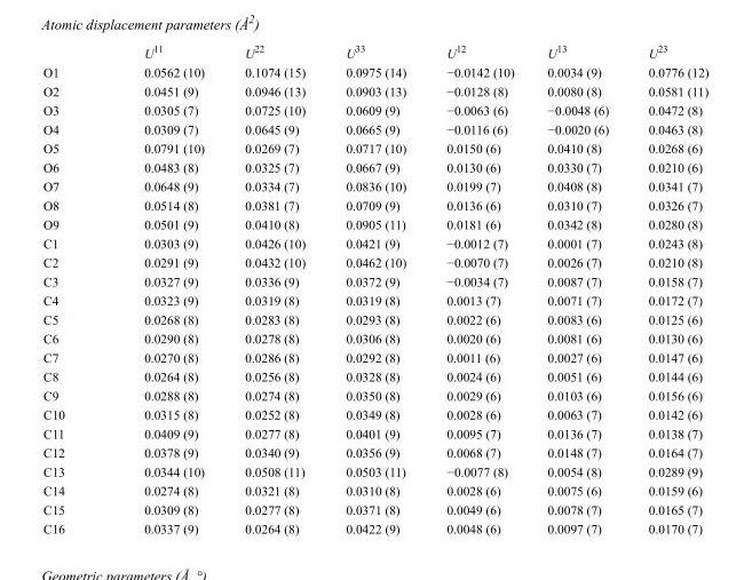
<table><thead><tr><td></td><td>U<sup>11</sup></td><td>U<sup>22</sup></td><td>U<sup>33</sup></td><td>U<sup>12</sup></td><td>U<sup>13</sup></td><td>U<sup>23</sup></td></tr></thead><tbody><tr><td>O1</td><td>0.0562 (10)</td><td>0.1074 (15)</td><td>0.0975 (14)</td><td>−0.0142 (10)</td><td>0.0034 (9)</td><td>0.0776 (12)</td></tr><tr><td>O2</td><td>0.0451 (9)</td><td>0.0946 (13)</td><td>0.0903 (13)</td><td>−0.0128 (8)</td><td>0.0080 (8)</td><td>0.0581 (11)</td></tr><tr><td>O3</td><td>0.0305 (7)</td><td>0.0725 (10)</td><td>0.0609 (9)</td><td>−0.0063 (6)</td><td>−0.0048 (6)</td><td>0.0472 (8)</td></tr><tr><td>O4</td><td>0.0309 (7)</td><td>0.0645 (9)</td><td>0.0665 (9)</td><td>−0.0116 (6)</td><td>−0.0020 (6)</td><td>0.0463 (8)</td></tr><tr><td>O5</td><td>0.0791 (10)</td><td>0.0269 (7)</td><td>0.0717 (10)</td><td>0.0150 (6)</td><td>0.0410 (8)</td><td>0.0268 (6)</td></tr><tr><td>O6</td><td>0.0483 (8)</td><td>0.0325 (7)</td><td>0.0667 (9)</td><td>0.0130 (6)</td><td>0.0330 (7)</td><td>0.0210 (6)</td></tr><tr><td>O7</td><td>0.0648 (9)</td><td>0.0334 (7)</td><td>0.0836 (10)</td><td>0.0199 (7)</td><td>0.0408 (8)</td><td>0.0341 (7)</td></tr><tr><td>O8</td><td>0.0514 (8)</td><td>0.0381 (7)</td><td>0.0709 (9)</td><td>0.0136 (6)</td><td>0.0310 (7)</td><td>0.0326 (7)</td></tr><tr><td>O9</td><td>0.0501 (9)</td><td>0.0410 (8)</td><td>0.0905 (11)</td><td>0.0181 (6)</td><td>0.0342 (8)</td><td>0.0280 (8)</td></tr><tr><td>C1</td><td>0.0303 (9)</td><td>0.0426 (10)</td><td>0.0421 (9)</td><td>−0.0012 (7)</td><td>0.0001 (7)</td><td>0.0243 (8)</td></tr><tr><td>C2</td><td>0.0291 (9)</td><td>0.0432 (10)</td><td>0.0462 (10)</td><td>−0.0070 (7)</td><td>0.0026 (7)</td><td>0.0210 (8)</td></tr><tr><td>C3</td><td>0.0327 (9)</td><td>0.0336 (9)</td><td>0.0372 (9)</td><td>−0.0034 (7)</td><td>0.0087 (7)</td><td>0.0158 (7)</td></tr><tr><td>C4</td><td>0.0323 (9)</td><td>0.0319 (8)</td><td>0.0319 (8)</td><td>0.0013 (7)</td><td>0.0071 (7)</td><td>0.0172 (7)</td></tr><tr><td>C5</td><td>0.0268 (8)</td><td>0.0283 (8)</td><td>0.0293 (8)</td><td>0.0022 (6)</td><td>0.0083 (6)</td><td>0.0125 (6)</td></tr><tr><td>C6</td><td>0.0290 (8)</td><td>0.0278 (8)</td><td>0.0306 (8)</td><td>0.0020 (6)</td><td>0.0081 (6)</td><td>0.0130 (6)</td></tr><tr><td>C7</td><td>0.0270 (8)</td><td>0.0286 (8)</td><td>0.0292 (8)</td><td>0.0011 (6)</td><td>0.0027 (6)</td><td>0.0147 (6)</td></tr><tr><td>C8</td><td>0.0264 (8)</td><td>0.0256 (8)</td><td>0.0328 (8)</td><td>0.0024 (6)</td><td>0.0051 (6)</td><td>0.0144 (6)</td></tr><tr><td>C9</td><td>0.0288 (8)</td><td>0.0274 (8)</td><td>0.0350 (8)</td><td>0.0029 (6)</td><td>0.0103 (6)</td><td>0.0156 (6)</td></tr><tr><td>C10</td><td>0.0315 (8)</td><td>0.0252 (8)</td><td>0.0349 (8)</td><td>0.0028 (6)</td><td>0.0063 (7)</td><td>0.0142 (6)</td></tr><tr><td>C11</td><td>0.0409 (9)</td><td>0.0277 (8)</td><td>0.0401 (9)</td><td>0.0095 (7)</td><td>0.0136 (7)</td><td>0.0138 (7)</td></tr><tr><td>C12</td><td>0.0378 (9)</td><td>0.0340 (9)</td><td>0.0356 (9)</td><td>0.0068 (7)</td><td>0.0148 (7)</td><td>0.0164 (7)</td></tr><tr><td>C13</td><td>0.0344 (10)</td><td>0.0508 (11)</td><td>0.0503 (11)</td><td>−0.0077 (8)</td><td>0.0054 (8)</td><td>0.0289 (9)</td></tr><tr><td>C14</td><td>0.0274 (8)</td><td>0.0321 (8)</td><td>0.0310 (8)</td><td>0.0028 (6)</td><td>0.0075 (6)</td><td>0.0159 (6)</td></tr><tr><td>C15</td><td>0.0309 (8)</td><td>0.0277 (8)</td><td>0.0371 (8)</td><td>0.0049 (6)</td><td>0.0078 (7)</td><td>0.0165 (7)</td></tr><tr><td>C16</td><td>0.0337 (9)</td><td>0.0264 (8)</td><td>0.0422 (9)</td><td>0.0048 (6)</td><td>0.0097 (7)</td><td>0.0170 (7)</td></tr></tbody></table>